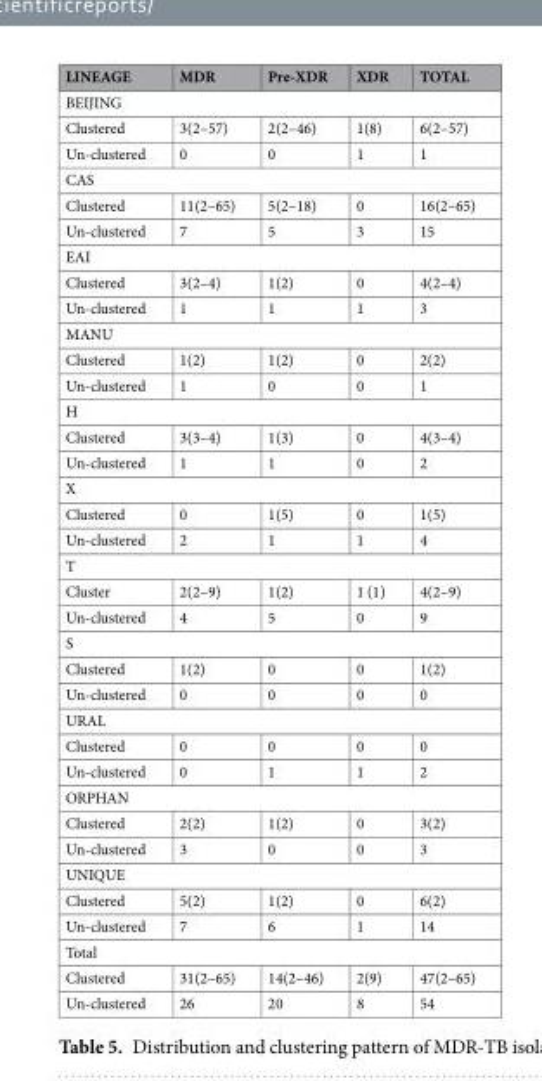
<table><thead><tr><td>LINEAGE</td><td>MDR</td><td>Pre-XDR</td><td>XDR</td><td>TOTAL</td></tr></thead><tbody><tr><td colspan="5">BEIJING</td></tr><tr><td>Clustered</td><td>3(2–57)</td><td>2(2–46)</td><td>1(8)</td><td>6(2–57)</td></tr><tr><td>Un-clustered</td><td>0</td><td>0</td><td>1</td><td>1</td></tr><tr><td colspan="5">CAS</td></tr><tr><td>Clustered</td><td>11(2–65)</td><td>5(2–18)</td><td>0</td><td>16(2–65)</td></tr><tr><td>Un-clustered</td><td>7</td><td>5</td><td>3</td><td>15</td></tr><tr><td colspan="5">EAI</td></tr><tr><td>Clustered</td><td>3(2–4)</td><td>1(2)</td><td>0</td><td>4(2–4)</td></tr><tr><td>Un-clustered</td><td>1</td><td>1</td><td>1</td><td>3</td></tr><tr><td colspan="5">MANU</td></tr><tr><td>Clustered</td><td>1(2)</td><td>1(2)</td><td>0</td><td>2(2)</td></tr><tr><td>Un-clustered</td><td>1</td><td>0</td><td>0</td><td>1</td></tr><tr><td colspan="5">H</td></tr><tr><td>Clustered</td><td>3(3–4)</td><td>1(3)</td><td>0</td><td>4(3–4)</td></tr><tr><td>Un-clustered</td><td>1</td><td>1</td><td>0</td><td>2</td></tr><tr><td colspan="5">X</td></tr><tr><td>Clustered</td><td>0</td><td>1(5)</td><td>0</td><td>1(5)</td></tr><tr><td>Un-clustered</td><td>2</td><td>1</td><td>1</td><td>4</td></tr><tr><td colspan="5">T</td></tr><tr><td>Cluster</td><td>2(2–9)</td><td>1(2)</td><td>1 (1)</td><td>4(2–9)</td></tr><tr><td>Un-clustered</td><td>4</td><td>5</td><td>0</td><td>9</td></tr><tr><td colspan="5">S</td></tr><tr><td>Clustered</td><td>1(2)</td><td>0</td><td>0</td><td>1(2)</td></tr><tr><td>Un-clustered</td><td>0</td><td>0</td><td>0</td><td>0</td></tr><tr><td colspan="5">URAL</td></tr><tr><td>Clustered</td><td>0</td><td>0</td><td>0</td><td>0</td></tr><tr><td>Un-clustered</td><td>0</td><td>1</td><td>1</td><td>2</td></tr><tr><td colspan="5">ORPHAN</td></tr><tr><td>Clustered</td><td>2(2)</td><td>1(2)</td><td>0</td><td>3(2)</td></tr><tr><td>Un-clustered</td><td>3</td><td>0</td><td>0</td><td>3</td></tr><tr><td colspan="5">UNIQUE</td></tr><tr><td>Clustered</td><td>5(2)</td><td>1(2)</td><td>0</td><td>6(2)</td></tr><tr><td>Un-clustered</td><td>7</td><td>6</td><td>1</td><td>14</td></tr><tr><td colspan="5">Total</td></tr><tr><td>Clustered</td><td>31(2–65)</td><td>14(2–46)</td><td>2(9)</td><td>47(2–65)</td></tr><tr><td>Un-clustered</td><td>26</td><td>20</td><td>8</td><td>54</td></tr></tbody></table>